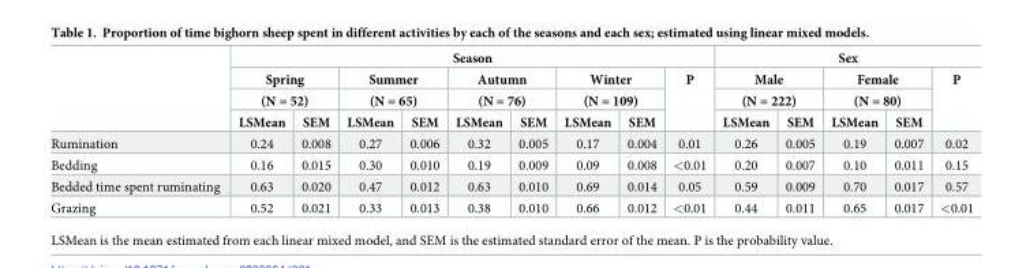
<table><thead><tr><td rowspan="4"></td><td colspan="9">Season</td><td colspan="5">Sex</td></tr><tr><td rowspan="2" colspan="2">Spring (N = 52)</td><td rowspan="2" colspan="2">Summer (N = 65)</td><td rowspan="2" colspan="2">Autumn (N = 76)</td><td rowspan="2" colspan="2">Winter (N = 109)</td><td rowspan="3">P</td><td rowspan="2" colspan="2">Male (N = 222)</td><td rowspan="2" colspan="2">Female (N = 80)</td><td rowspan="3">P</td></tr><tr></tr><tr><td>LSMean</td><td>SEM</td><td>LSMean</td><td>SEM</td><td>LSMean</td><td>SEM</td><td>LSMean</td><td>SEM</td><td>LSMean</td><td>SEM</td><td>LSMean</td><td>SEM</td></tr></thead><tbody><tr><td>Rumination</td><td>0.24</td><td>0.008</td><td>0.27</td><td>0.006</td><td>0.32</td><td>0.005</td><td>0.17</td><td>0.004</td><td>0.01</td><td>0.26</td><td>0.005</td><td>0.19</td><td>0.007</td><td>0.02</td></tr><tr><td>Bedding</td><td>0.16</td><td>0.015</td><td>0.30</td><td>0.010</td><td>0.19</td><td>0.009</td><td>0.09</td><td>0.008</td><td>&lt;0.01</td><td>0.20</td><td>0.007</td><td>0.10</td><td>0.011</td><td>0.15</td></tr><tr><td>Bedded time spent ruminating</td><td>0.63</td><td>0.020</td><td>0.47</td><td>0.012</td><td>0.63</td><td>0.010</td><td>0.69</td><td>0.014</td><td>0.05</td><td>0.59</td><td>0.009</td><td>0.70</td><td>0.017</td><td>0.57</td></tr><tr><td>Grazing</td><td>0.52</td><td>0.021</td><td>0.33</td><td>0.013</td><td>0.38</td><td>0.010</td><td>0.66</td><td>0.012</td><td>&lt;0.01</td><td>0.44</td><td>0.011</td><td>0.65</td><td>0.017</td><td>&lt;0.01</td></tr></tbody></table>